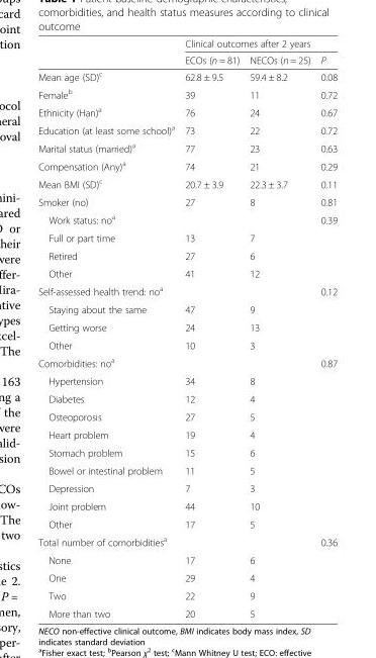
<table><thead><tr><td rowspan="2"></td><td colspan="3">Clinical outcomes after 2 years</td></tr><tr><td>ECOs (n = 81)</td><td>NECOs (n = 25)</td><td>P</td></tr></thead><tbody><tr><td>Mean age (SD)<sup>c</sup></td><td>62.8 ± 9.5</td><td>59.4 ± 8.2</td><td>0.08</td></tr><tr><td>Female<sup>b</sup></td><td>39</td><td>11</td><td>0.72</td></tr><tr><td>Ethnicity (Han)<sup>a</sup></td><td>76</td><td>24</td><td>0.67</td></tr><tr><td>Education (at least some school)<sup>a</sup></td><td>73</td><td>22</td><td>0.72</td></tr><tr><td>Marital status (married)<sup>a</sup></td><td>77</td><td>23</td><td>0.63</td></tr><tr><td>Compensation (Any)<sup>a</sup></td><td>74</td><td>21</td><td>0.29</td></tr><tr><td>Mean BMI (SD)<sup>c</sup></td><td>20.7 ± 3.9</td><td>22.3 ± 3.7</td><td>0.11</td></tr><tr><td>Smoker (no)</td><td>27</td><td>8</td><td>0.81</td></tr><tr><td>Work status: no<sup>a</sup></td><td></td><td></td><td>0.39</td></tr><tr><td>Full or part time</td><td>13</td><td>7</td><td></td></tr><tr><td>Retired</td><td>27</td><td>6</td><td></td></tr><tr><td>Other</td><td>41</td><td>12</td><td></td></tr><tr><td>Self-assessed health trend: no<sup>a</sup></td><td></td><td></td><td>0.12</td></tr><tr><td>Staying about the same</td><td>47</td><td>9</td><td></td></tr><tr><td>Getting worse</td><td>24</td><td>13</td><td></td></tr><tr><td>Other</td><td>10</td><td>3</td><td></td></tr><tr><td>Comorbidities: no<sup>a</sup></td><td></td><td></td><td>0.87</td></tr><tr><td>Hypertension</td><td>34</td><td>8</td><td></td></tr><tr><td>Diabetes</td><td>12</td><td>4</td><td></td></tr><tr><td>Osteoporosis</td><td>27</td><td>5</td><td></td></tr><tr><td>Heart problem</td><td>19</td><td>4</td><td></td></tr><tr><td>Stomach problem</td><td>15</td><td>6</td><td></td></tr><tr><td>Bowel or intestinal problem</td><td>11</td><td>5</td><td></td></tr><tr><td>Depression</td><td>7</td><td>3</td><td></td></tr><tr><td>Joint problem</td><td>44</td><td>10</td><td></td></tr><tr><td>Other</td><td>17</td><td>5</td><td></td></tr><tr><td>Total number of comorbidities<sup>a</sup></td><td></td><td></td><td>0.36</td></tr><tr><td>None</td><td>17</td><td>6</td><td></td></tr><tr><td>One</td><td>29</td><td>4</td><td></td></tr><tr><td>Two</td><td>22</td><td>9</td><td></td></tr><tr><td>More than two</td><td>20</td><td>5</td><td></td></tr></tbody></table>